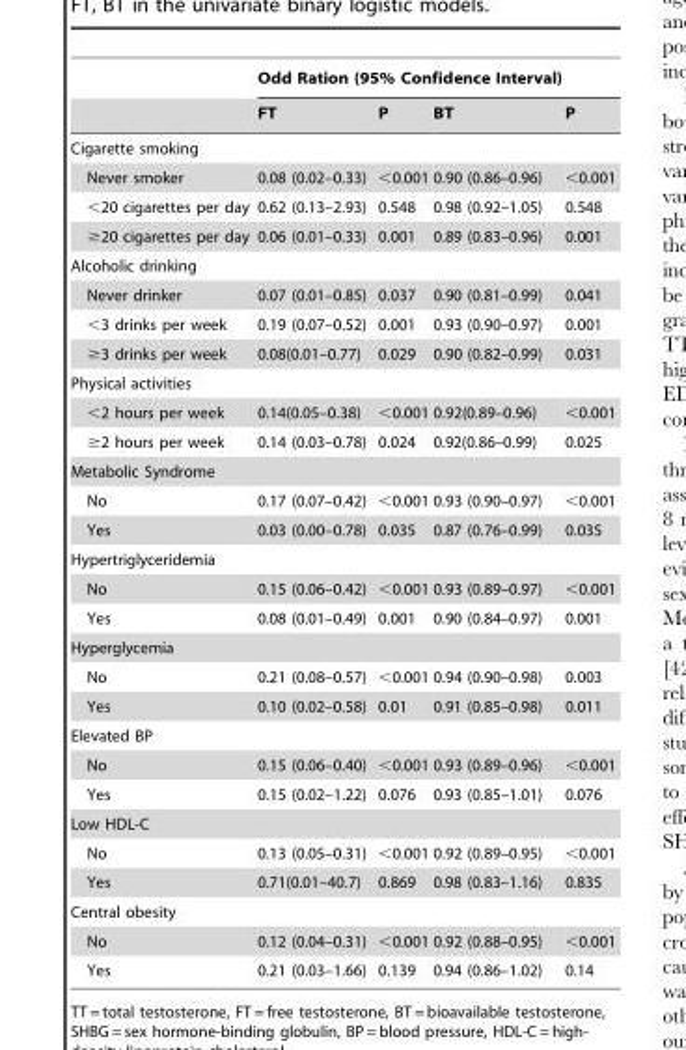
<table><thead><tr><td rowspan="2"></td><td colspan="4">Odd Ration (95% Confidence Interval)</td></tr><tr><td>FT</td><td>P</td><td>BT</td><td>P</td></tr></thead><tbody><tr><td colspan="5">Cigarette smoking</td></tr><tr><td>Never smoker</td><td>0.08 (0.02–0.33)</td><td>&lt;0.001</td><td>0.90 (0.86–0.96)</td><td>&lt;0.001</td></tr><tr><td>&lt;20 cigarettes per day</td><td>0.62 (0.13–2.93)</td><td>0.548</td><td>0.98 (0.92–1.05)</td><td>0.548</td></tr><tr><td>≥20 cigarettes per day</td><td>0.06 (0.01–0.33)</td><td>0.001</td><td>0.89 (0.83–0.96)</td><td>0.001</td></tr><tr><td colspan="5">Alcoholic drinking</td></tr><tr><td>Never drinker</td><td>0.07 (0.01–0.85)</td><td>0.037</td><td>0.90 (0.81–0.99)</td><td>0.041</td></tr><tr><td>&lt;3 drinks per week</td><td>0.19 (0.07–0.52)</td><td>0.001</td><td>0.93 (0.90–0.97)</td><td>0.001</td></tr><tr><td>≥3 drinks per week</td><td>0.08(0.01–0.77)</td><td>0.029</td><td>0.90 (0.82–0.99)</td><td>0.031</td></tr><tr><td colspan="5">Physical activities</td></tr><tr><td>&lt;2 hours per week</td><td>0.14(0.05–0.38)</td><td>&lt;0.001</td><td>0.92(0.89–0.96)</td><td>&lt;0.001</td></tr><tr><td>≥2 hours per week</td><td>0.14 (0.03–0.78)</td><td>0.024</td><td>0.92(0.86–0.99)</td><td>0.025</td></tr><tr><td colspan="5">Metabolic Syndrome</td></tr><tr><td>No</td><td>0.17 (0.07–0.42)</td><td>&lt;0.001</td><td>0.93 (0.90–0.97)</td><td>&lt;0.001</td></tr><tr><td>Yes</td><td>0.03 (0.00–0.78)</td><td>0.035</td><td>0.87 (0.76–0.99)</td><td>0.035</td></tr><tr><td colspan="5">Hypertriglyceridemia</td></tr><tr><td>No</td><td>0.15 (0.06–0.42)</td><td>&lt;0.001</td><td>0.93 (0.89–0.97)</td><td>&lt;0.001</td></tr><tr><td>Yes</td><td>0.08 (0.01–0.49)</td><td>0.001</td><td>0.90 (0.84–0.97)</td><td>0.001</td></tr><tr><td colspan="5">Hyperglycemia</td></tr><tr><td>No</td><td>0.21 (0.08–0.57)</td><td>&lt;0.001</td><td>0.94 (0.90–0.98)</td><td>0.003</td></tr><tr><td>Yes</td><td>0.10 (0.02–0.58)</td><td>0.01</td><td>0.91 (0.85–0.98)</td><td>0.011</td></tr><tr><td colspan="5">Elevated BP</td></tr><tr><td>No</td><td>0.15 (0.06–0.40)</td><td>&lt;0.001</td><td>0.93 (0.89–0.96)</td><td>&lt;0.001</td></tr><tr><td>Yes</td><td>0.15 (0.02–1.22)</td><td>0.076</td><td>0.93 (0.85–1.01)</td><td>0.076</td></tr><tr><td colspan="5">Low HDL-C</td></tr><tr><td>No</td><td>0.13 (0.05–0.31)</td><td>&lt;0.001</td><td>0.92 (0.89–0.95)</td><td>&lt;0.001</td></tr><tr><td>Yes</td><td>0.71(0.01–40.7)</td><td>0.869</td><td>0.98 (0.83–1.16)</td><td>0.835</td></tr><tr><td colspan="5">Central obesity</td></tr><tr><td>No</td><td>0.12 (0.04–0.31)</td><td>&lt;0.001</td><td>0.92 (0.88–0.95)</td><td>&lt;0.001</td></tr><tr><td>Yes</td><td>0.21 (0.03–1.66)</td><td>0.139</td><td>0.94 (0.86–1.02)</td><td>0.14</td></tr></tbody></table>